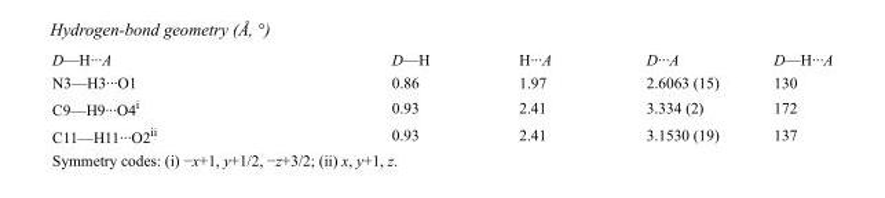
<table><tbody><tr><td>D—H···A</td><td>D—H</td><td>H···A</td><td>D···A</td><td>D—H···A</td></tr><tr><td>N3—H3···O1</td><td>0.86</td><td>1.97</td><td>2.6063 (15)</td><td>130</td></tr><tr><td>C9—H9···O4<sup>i</sup></td><td>0.93</td><td>2.41</td><td>3.334 (2)</td><td>172</td></tr><tr><td>C11—H11···O2<sup>ii</sup></td><td>0.93</td><td>2.41</td><td>3.1530 (19)</td><td>137</td></tr></tbody></table>